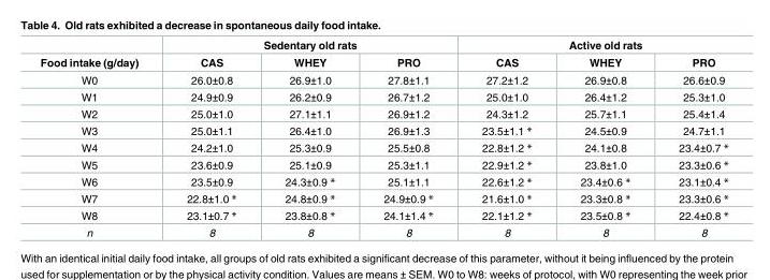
<table><thead><tr><td rowspan="2">Food intake (g/day)</td><td colspan="3">Sedentary old rats</td><td colspan="3">Active old rats</td></tr><tr><td>CAS</td><td>WHEY</td><td>PRO</td><td>CAS</td><td>WHEY</td><td>PRO</td></tr></thead><tbody><tr><td>W0</td><td>26.0±0.8</td><td>26.9±1.0</td><td>27.8±1.1</td><td>27.2±1.2</td><td>26.9±0.8</td><td>26.6±0.9</td></tr><tr><td>W1</td><td>24.9±0.9</td><td>26.2±0.9</td><td>26.7±1.2</td><td>25.0±1.0</td><td>26.4±1.2</td><td>25.3±1.0</td></tr><tr><td>W2</td><td>25.0±1.0</td><td>27.1±1.1</td><td>26.9±1.2</td><td>24.3±1.2</td><td>25.7±1.1</td><td>25.4±1.4</td></tr><tr><td>W3</td><td>25.0±1.1</td><td>26.4±1.0</td><td>26.9±1.3</td><td>23.5±1.1 *</td><td>24.5±0.9</td><td>24.7±1.1</td></tr><tr><td>W4</td><td>24.2±1.0</td><td>25.3±0.9</td><td>25.5±0.8</td><td>22.8±1.2 *</td><td>24.1±0.8</td><td>23.4±0.7 *</td></tr><tr><td>W5</td><td>23.6±0.9</td><td>25.1±0.9</td><td>25.3±1.1</td><td>22.9±1.2 *</td><td>23.8±1.0</td><td>23.3±0.6 *</td></tr><tr><td>W6</td><td>23.5±0.9</td><td>24.3±0.9 *</td><td>25.1±1.1</td><td>22.6±1.2 *</td><td>23.4±0.6 *</td><td>23.1±0.4 *</td></tr><tr><td>W7</td><td>22.8±1.0 *</td><td>24.8±0.9 *</td><td>24.9±0.9 *</td><td>21.6±1.0 *</td><td>23.3±0.8 *</td><td>23.3±0.6 *</td></tr><tr><td>W8</td><td>23.1±0.7 *</td><td>23.8±0.8 *</td><td>24.1±1.4 *</td><td>22.1±1.2 *</td><td>23.5±0.8 *</td><td>22.4±0.8 *</td></tr><tr><td>n</td><td>8</td><td>8</td><td>8</td><td>8</td><td>8</td><td>8</td></tr></tbody></table>